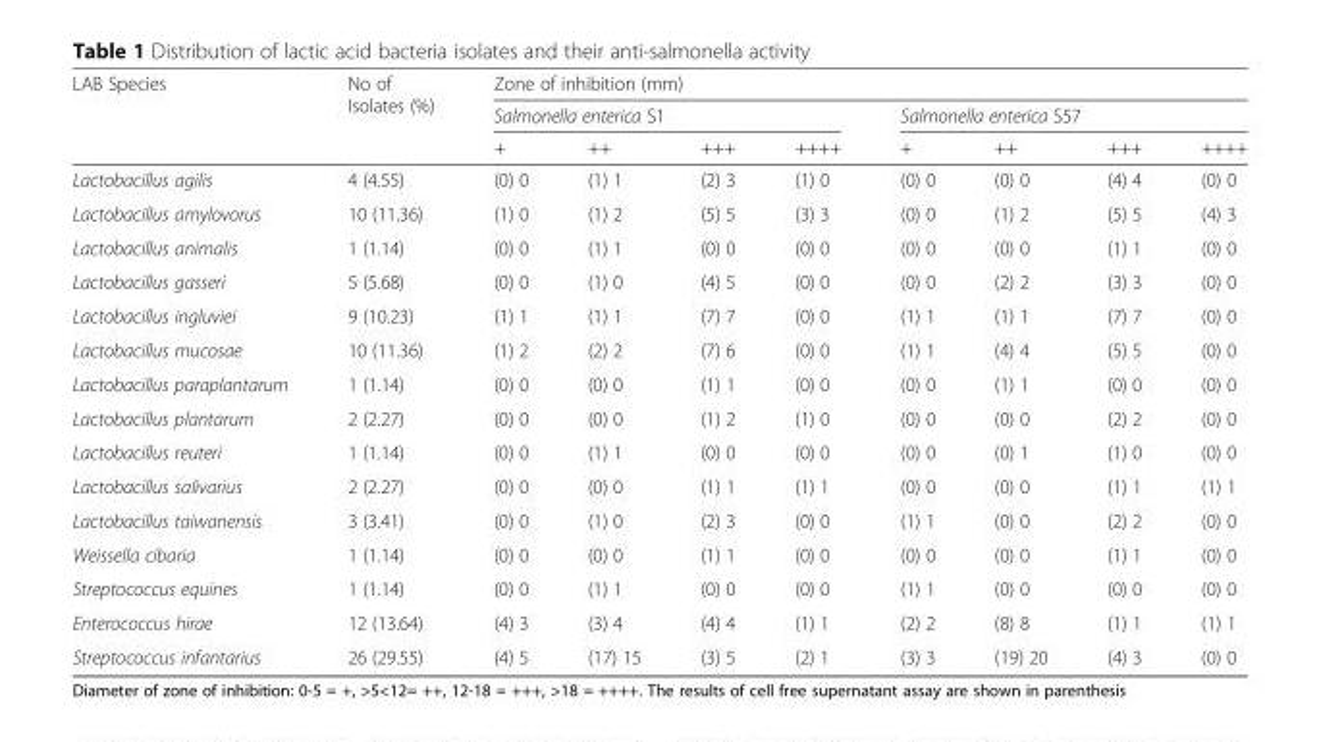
<table><thead><tr><td rowspan="3">LAB Species</td><td rowspan="3">No of Isolates (%)</td><td colspan="8">Zone of inhibition (mm)</td></tr><tr><td colspan="4">Salmonella enterica S1</td><td colspan="4">Salmonella enterica S57</td></tr><tr><td>+</td><td>++</td><td>+++</td><td>++++</td><td>+</td><td>++</td><td>+++</td><td>++++</td></tr></thead><tbody><tr><td>Lactobacillus agilis</td><td>4 (4.55)</td><td>(0) 0</td><td>(1) 1</td><td>(2) 3</td><td>(1) 0</td><td>(0) 0</td><td>(0) 0</td><td>(4) 4</td><td>(0) 0</td></tr><tr><td>Lactobacillus amylovorus</td><td>10 (11.36)</td><td>(1) 0</td><td>(1) 2</td><td>(5) 5</td><td>(3) 3</td><td>(0) 0</td><td>(1) 2</td><td>(5) 5</td><td>(4) 3</td></tr><tr><td>Lactobacillus animalis</td><td>1 (1.14)</td><td>(0) 0</td><td>(1) 1</td><td>(0) 0</td><td>(0) 0</td><td>(0) 0</td><td>(0) 0</td><td>(1) 1</td><td>(0) 0</td></tr><tr><td>Lactobacillus gasseri</td><td>5 (5.68)</td><td>(0) 0</td><td>(1) 0</td><td>(4) 5</td><td>(0) 0</td><td>(0) 0</td><td>(2) 2</td><td>(3) 3</td><td>(0) 0</td></tr><tr><td>Lactobacillus ingluviei</td><td>9 (10.23)</td><td>(1) 1</td><td>(1) 1</td><td>(7) 7</td><td>(0) 0</td><td>(1) 1</td><td>(1) 1</td><td>(7) 7</td><td>(0) 0</td></tr><tr><td>Lactobacillus mucosae</td><td>10 (11.36)</td><td>(1) 2</td><td>(2) 2</td><td>(7) 6</td><td>(0) 0</td><td>(1) 1</td><td>(4) 4</td><td>(5) 5</td><td>(0) 0</td></tr><tr><td>Lactobacillus paraplantarum</td><td>1 (1.14)</td><td>(0) 0</td><td>(0) 0</td><td>(1) 1</td><td>(0) 0</td><td>(0) 0</td><td>(1) 1</td><td>(0) 0</td><td>(0) 0</td></tr><tr><td>Lactobacillus plantarum</td><td>2 (2.27)</td><td>(0) 0</td><td>(0) 0</td><td>(1) 2</td><td>(1) 0</td><td>(0) 0</td><td>(0) 0</td><td>(2) 2</td><td>(0) 0</td></tr><tr><td>Lactobacillus reuteri</td><td>1 (1.14)</td><td>(0) 0</td><td>(1) 1</td><td>(0) 0</td><td>(0) 0</td><td>(0) 0</td><td>(0) 1</td><td>(1) 0</td><td>(0) 0</td></tr><tr><td>Lactobacillus salivarius</td><td>2 (2.27)</td><td>(0) 0</td><td>(0) 0</td><td>(1) 1</td><td>(1) 1</td><td>(0) 0</td><td>(0) 0</td><td>(1) 1</td><td>(1) 1</td></tr><tr><td>Lactobacillus taiwanensis</td><td>3 (3.41)</td><td>(0) 0</td><td>(1) 0</td><td>(2) 3</td><td>(0) 0</td><td>(1) 1</td><td>(0) 0</td><td>(2) 2</td><td>(0) 0</td></tr><tr><td>Weissella cibaria</td><td>1 (1.14)</td><td>(0) 0</td><td>(0) 0</td><td>(1) 1</td><td>(0) 0</td><td>(0) 0</td><td>(0) 0</td><td>(1) 1</td><td>(0) 0</td></tr><tr><td>Streptococcus equines</td><td>1 (1.14)</td><td>(0) 0</td><td>(1) 1</td><td>(0) 0</td><td>(0) 0</td><td>(1) 1</td><td>(0) 0</td><td>(0) 0</td><td>(0) 0</td></tr><tr><td>Enterococcus hirae</td><td>12 (13.64)</td><td>(4) 3</td><td>(3) 4</td><td>(4) 4</td><td>(1) 1</td><td>(2) 2</td><td>(8) 8</td><td>(1) 1</td><td>(1) 1</td></tr><tr><td>Streptococcus infantarius</td><td>26 (29.55)</td><td>(4) 5</td><td>(17) 15</td><td>(3) 5</td><td>(2) 1</td><td>(3) 3</td><td>(19) 20</td><td>(4) 3</td><td>(0) 0</td></tr></tbody></table>